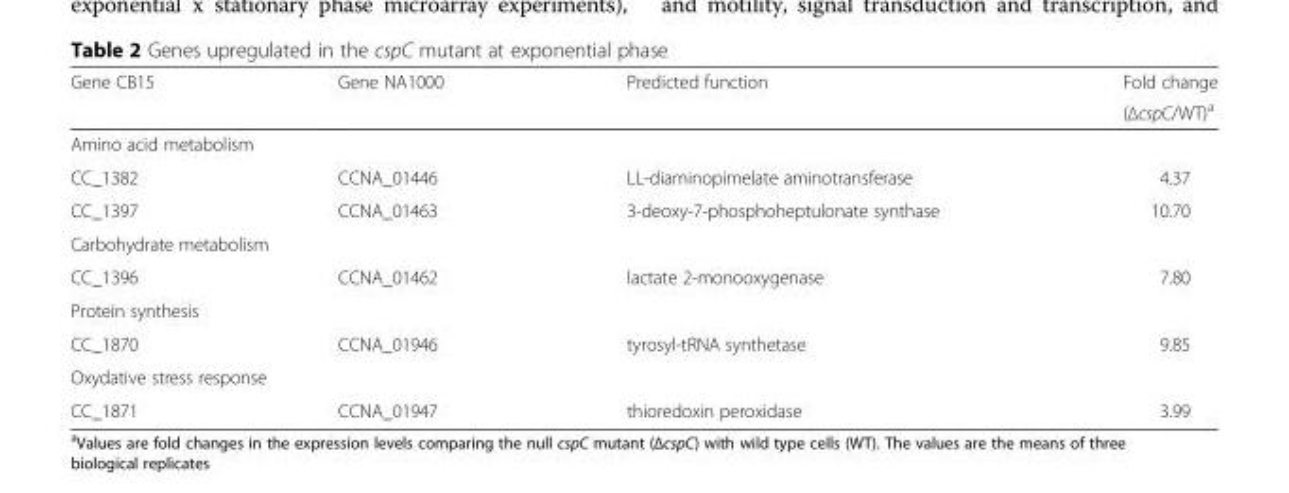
<table><thead><tr><td rowspan="2">Gene CB15</td><td rowspan="2">Gene NA1000</td><td rowspan="2">Predicted function</td><td rowspan="2">Fold change (ΔcspC/WT)a</td></tr><tr></tr></thead><tbody><tr><td colspan="4">Amino acid metabolism</td></tr><tr><td>CC_1382</td><td>CCNA_01446</td><td>LL-diaminopimelate aminotransferase</td><td>4.37</td></tr><tr><td>CC_1397</td><td>CCNA_01463</td><td>3-deoxy-7-phosphoheptulonate synthase</td><td>10.70</td></tr><tr><td colspan="4">Carbohydrate metabolism</td></tr><tr><td>CC_1396</td><td>CCNA_01462</td><td>lactate 2-monooxygenase</td><td>7.80</td></tr><tr><td colspan="4">Protein synthesis</td></tr><tr><td>CC_1870</td><td>CCNA_01946</td><td>tyrosyl-tRNA synthetase</td><td>9.85</td></tr><tr><td colspan="4">Oxydative stress response</td></tr><tr><td>CC_1871</td><td>CCNA_01947</td><td>thioredoxin peroxidase</td><td>3.99</td></tr></tbody></table>